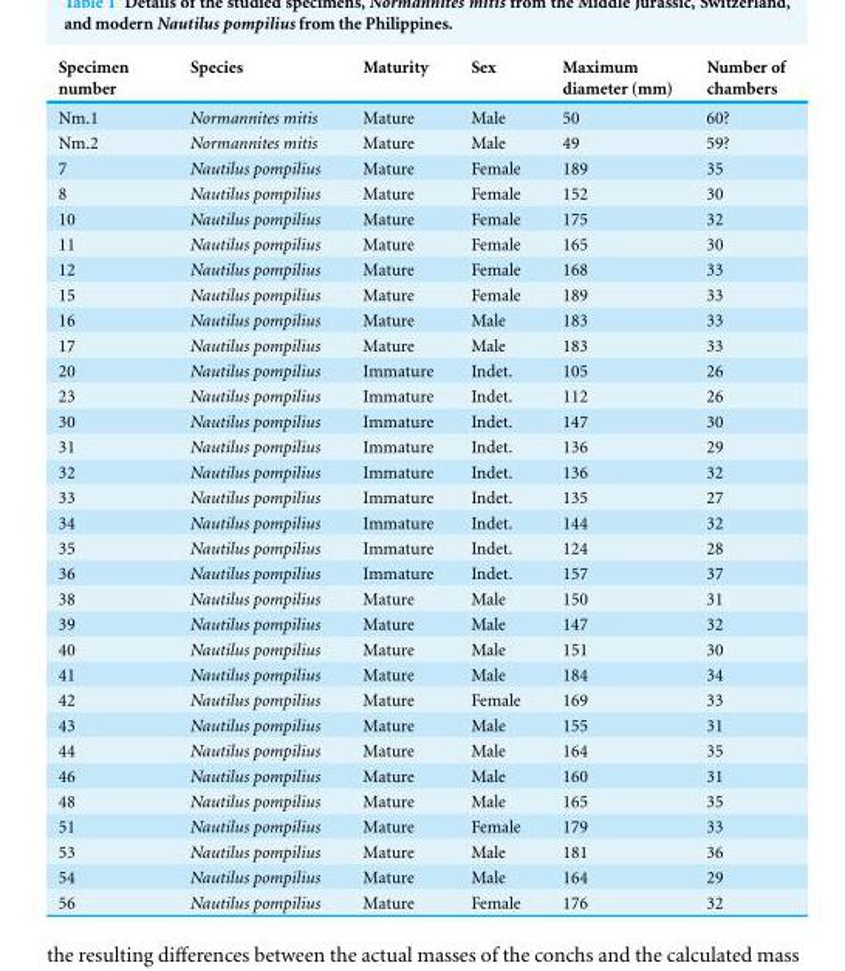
<table><thead><tr><td>Specimen number</td><td>Species</td><td>Maturity</td><td>Sex</td><td>Maximum diameter (mm)</td><td>Number of chambers</td></tr></thead><tbody><tr><td>Nm.1</td><td>Normannites mitis</td><td>Mature</td><td>Male</td><td>50</td><td>60?</td></tr><tr><td>Nm.2</td><td>Normannites mitis</td><td>Mature</td><td>Male</td><td>49</td><td>59?</td></tr><tr><td>7</td><td>Nautilus pompilius</td><td>Mature</td><td>Female</td><td>189</td><td>35</td></tr><tr><td>8</td><td>Nautilus pompilius</td><td>Mature</td><td>Female</td><td>152</td><td>30</td></tr><tr><td>10</td><td>Nautilus pompilius</td><td>Mature</td><td>Female</td><td>175</td><td>32</td></tr><tr><td>11</td><td>Nautilus pompilius</td><td>Mature</td><td>Female</td><td>165</td><td>30</td></tr><tr><td>12</td><td>Nautilus pompilius</td><td>Mature</td><td>Female</td><td>168</td><td>33</td></tr><tr><td>15</td><td>Nautilus pompilius</td><td>Mature</td><td>Female</td><td>189</td><td>33</td></tr><tr><td>16</td><td>Nautilus pompilius</td><td>Mature</td><td>Male</td><td>183</td><td>33</td></tr><tr><td>17</td><td>Nautilus pompilius</td><td>Mature</td><td>Male</td><td>183</td><td>33</td></tr><tr><td>20</td><td>Nautilus pompilius</td><td>Immature</td><td>Indet.</td><td>105</td><td>26</td></tr><tr><td>23</td><td>Nautilus pompilius</td><td>Immature</td><td>Indet.</td><td>112</td><td>26</td></tr><tr><td>30</td><td>Nautilus pompilius</td><td>Immature</td><td>Indet.</td><td>147</td><td>30</td></tr><tr><td>31</td><td>Nautilus pompilius</td><td>Immature</td><td>Indet.</td><td>136</td><td>29</td></tr><tr><td>32</td><td>Nautilus pompilius</td><td>Immature</td><td>Indet.</td><td>136</td><td>32</td></tr><tr><td>33</td><td>Nautilus pompilius</td><td>Immature</td><td>Indet.</td><td>135</td><td>27</td></tr><tr><td>34</td><td>Nautilus pompilius</td><td>Immature</td><td>Indet.</td><td>144</td><td>32</td></tr><tr><td>35</td><td>Nautilus pompilius</td><td>Immature</td><td>Indet.</td><td>124</td><td>28</td></tr><tr><td>36</td><td>Nautilus pompilius</td><td>Immature</td><td>Indet.</td><td>157</td><td>37</td></tr><tr><td>38</td><td>Nautilus pompilius</td><td>Mature</td><td>Male</td><td>150</td><td>31</td></tr><tr><td>39</td><td>Nautilus pompilius</td><td>Mature</td><td>Male</td><td>147</td><td>32</td></tr><tr><td>40</td><td>Nautilus pompilius</td><td>Mature</td><td>Male</td><td>151</td><td>30</td></tr><tr><td>41</td><td>Nautilus pompilius</td><td>Mature</td><td>Male</td><td>184</td><td>34</td></tr><tr><td>42</td><td>Nautilus pompilius</td><td>Mature</td><td>Female</td><td>169</td><td>33</td></tr><tr><td>43</td><td>Nautilus pompilius</td><td>Mature</td><td>Male</td><td>155</td><td>31</td></tr><tr><td>44</td><td>Nautilus pompilius</td><td>Mature</td><td>Male</td><td>164</td><td>35</td></tr><tr><td>46</td><td>Nautilus pompilius</td><td>Mature</td><td>Male</td><td>160</td><td>31</td></tr><tr><td>48</td><td>Nautilus pompilius</td><td>Mature</td><td>Male</td><td>165</td><td>35</td></tr><tr><td>51</td><td>Nautilus pompilius</td><td>Mature</td><td>Female</td><td>179</td><td>33</td></tr><tr><td>53</td><td>Nautilus pompilius</td><td>Mature</td><td>Male</td><td>181</td><td>36</td></tr><tr><td>54</td><td>Nautilus pompilius</td><td>Mature</td><td>Male</td><td>164</td><td>29</td></tr><tr><td>56</td><td>Nautilus pompilius</td><td>Mature</td><td>Female</td><td>176</td><td>32</td></tr></tbody></table>